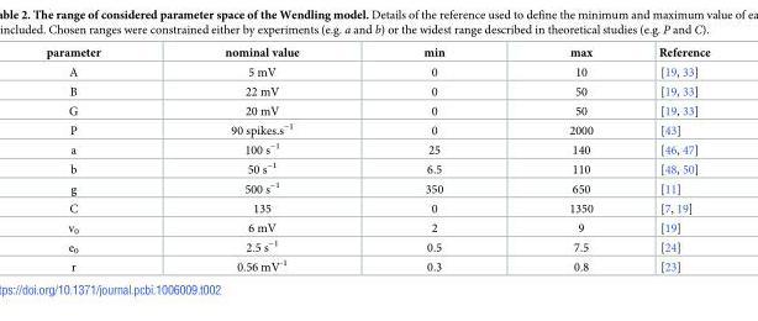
<table><thead><tr><td>parameter</td><td>nominal value</td><td>min</td><td>max</td><td>Reference</td></tr></thead><tbody><tr><td>A</td><td>5 mV</td><td>0</td><td>10</td><td>[19, 33]</td></tr><tr><td>B</td><td>22 mV</td><td>0</td><td>50</td><td>[19, 33]</td></tr><tr><td>G</td><td>20 mV</td><td>0</td><td>50</td><td>[19, 33]</td></tr><tr><td>P</td><td>90 spikes.s<sup>−1</sup></td><td>0</td><td>2000</td><td>[43]</td></tr><tr><td>a</td><td>100 s<sup>−1</sup></td><td>25</td><td>140</td><td>[46, 47]</td></tr><tr><td>b</td><td>50 s<sup>−1</sup></td><td>6.5</td><td>110</td><td>[48, 50]</td></tr><tr><td>g</td><td>500 s<sup>−1</sup></td><td>350</td><td>650</td><td>[11]</td></tr><tr><td>C</td><td>135</td><td>0</td><td>1350</td><td>[7, 19]</td></tr><tr><td>v<sub>0</sub></td><td>6 mV</td><td>2</td><td>9</td><td>[19]</td></tr><tr><td>e<sub>0</sub></td><td>2.5 s<sup>−1</sup></td><td>0.5</td><td>7.5</td><td>[24]</td></tr><tr><td>r</td><td>0.56 mV<sup>-1</sup></td><td>0.3</td><td>0.8</td><td>[23]</td></tr></tbody></table>